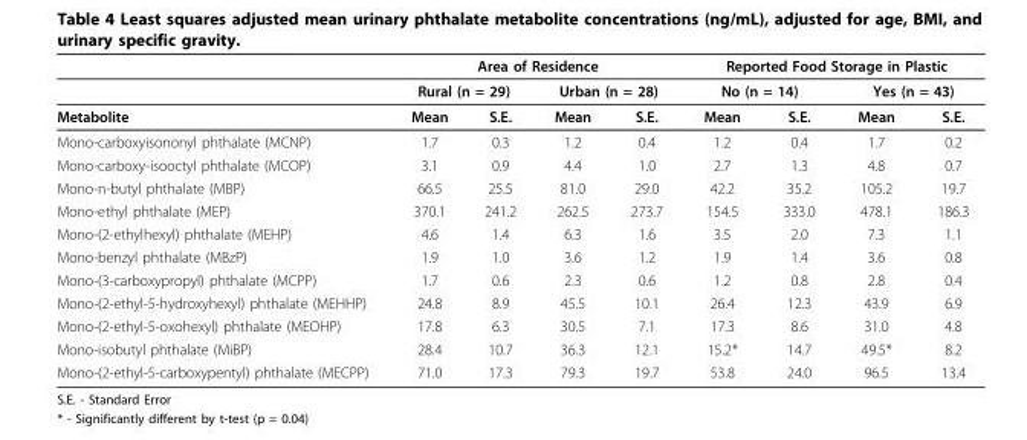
<table><thead><tr><td rowspan="3">Metabolite</td><td colspan="4">Area of Residence</td><td colspan="4">Reported Food Storage in Plastic</td></tr><tr><td colspan="2">Rural (n = 29)</td><td colspan="2">Urban (n = 28)</td><td colspan="2">No (n = 14)</td><td colspan="2">Yes (n = 43)</td></tr><tr><td>Mean</td><td>S.E.</td><td>Mean</td><td>S.E.</td><td>Mean</td><td>S.E.</td><td>Mean</td><td>S.E.</td></tr></thead><tbody><tr><td>Mono-carboxyisononyl phthalate (MCNP)</td><td>1.7</td><td>0.3</td><td>1.2</td><td>0.4</td><td>1.2</td><td>0.4</td><td>1.7</td><td>0.2</td></tr><tr><td>Mono-carboxy-isooctyl phthalate (MCOP)</td><td>3.1</td><td>0.9</td><td>4.4</td><td>1.0</td><td>2.7</td><td>1.3</td><td>4.8</td><td>0.7</td></tr><tr><td>Mono-n-butyl phthalate (MBP)</td><td>66.5</td><td>25.5</td><td>81.0</td><td>29.0</td><td>42.2</td><td>35.2</td><td>105.2</td><td>19.7</td></tr><tr><td>Mono-ethyl phthalate (MEP)</td><td>370.1</td><td>241.2</td><td>262.5</td><td>273.7</td><td>154.5</td><td>333.0</td><td>478.1</td><td>186.3</td></tr><tr><td>Mono-(2-ethylhexyl) phthalate (MEHP)</td><td>4.6</td><td>1.4</td><td>6.3</td><td>1.6</td><td>3.5</td><td>2.0</td><td>7.3</td><td>1.1</td></tr><tr><td>Mono-benzyl phthalate (MBzP)</td><td>1.9</td><td>1.0</td><td>3.6</td><td>1.2</td><td>1.9</td><td>1.4</td><td>3.6</td><td>0.8</td></tr><tr><td>Mono-(3-carboxypropyl) phthalate (MCPP)</td><td>1.7</td><td>0.6</td><td>2.3</td><td>0.6</td><td>1.2</td><td>0.8</td><td>2.8</td><td>0.4</td></tr><tr><td>Mono-(2-ethyl-5-hydroxyhexyl) phthalate (MEHHP)</td><td>24.8</td><td>8.9</td><td>45.5</td><td>10.1</td><td>26.4</td><td>12.3</td><td>43.9</td><td>6.9</td></tr><tr><td>Mono-(2-ethyl-5-oxohexyl) phthalate (MEOHP)</td><td>17.8</td><td>6.3</td><td>30.5</td><td>7.1</td><td>17.3</td><td>8.6</td><td>31.0</td><td>4.8</td></tr><tr><td>Mono-isobutyl phthalate (MiBP)</td><td>28.4</td><td>10.7</td><td>36.3</td><td>12.1</td><td>15.2*</td><td>14.7</td><td>49.5*</td><td>8.2</td></tr><tr><td>Mono-(2-ethyl-5-carboxypentyl) phthalate (MECPP)</td><td>71.0</td><td>17.3</td><td>79.3</td><td>19.7</td><td>53.8</td><td>24.0</td><td>96.5</td><td>13.4</td></tr></tbody></table>